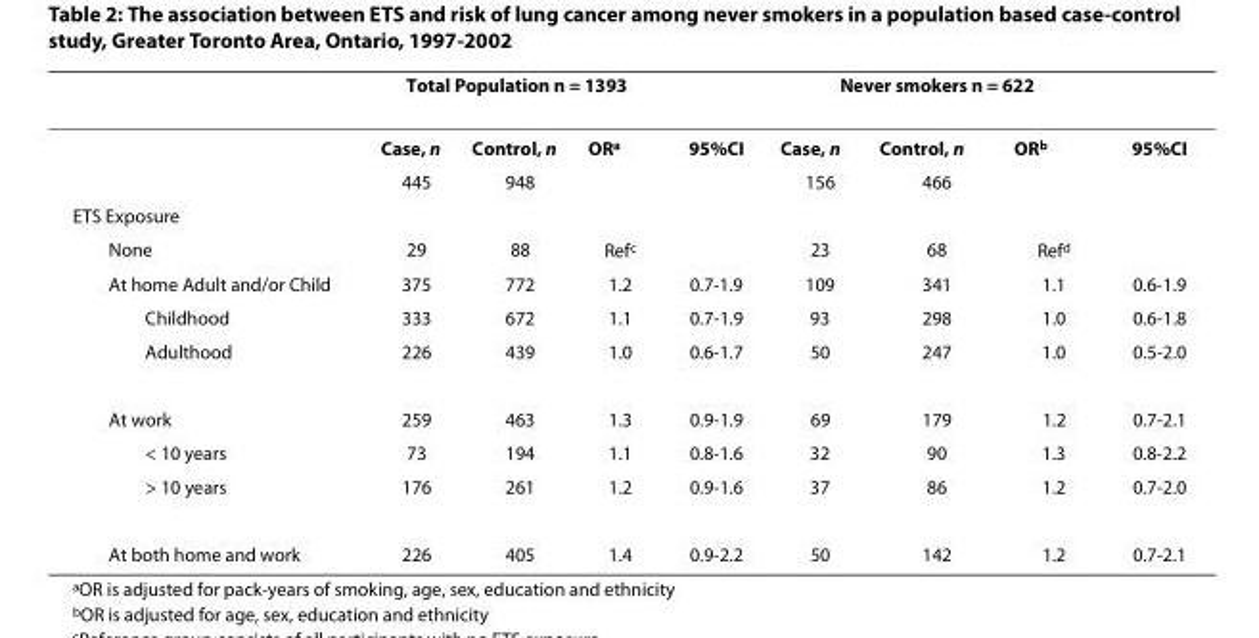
<table><thead><tr><td rowspan="2"></td><td colspan="3">Total Population n = 1393</td><td rowspan="2">95%CI</td><td colspan="3">Never smokers n = 622</td><td rowspan="2">95%CI</td></tr><tr><td>Case, n</td><td>Control, n</td><td>OR<sup>a</sup></td><td>Case, n</td><td>Control, n</td><td>OR<sup>b</sup></td></tr></thead><tbody><tr><td></td><td>445</td><td>948</td><td></td><td></td><td>156</td><td>466</td><td></td><td></td></tr><tr><td colspan="9">ETS Exposure</td></tr><tr><td>None</td><td>29</td><td>88</td><td>Ref<sup>c</sup></td><td></td><td>23</td><td>68</td><td>Ref<sup>d</sup></td><td></td></tr><tr><td>At home Adult and/or Child</td><td>375</td><td>772</td><td>1.2</td><td>0.7-1.9</td><td>109</td><td>341</td><td>1.1</td><td>0.6-1.9</td></tr><tr><td>Childhood</td><td>333</td><td>672</td><td>1.1</td><td>0.7-1.9</td><td>93</td><td>298</td><td>1.0</td><td>0.6-1.8</td></tr><tr><td>Adulthood</td><td>226</td><td>439</td><td>1.0</td><td>0.6-1.7</td><td>50</td><td>247</td><td>1.0</td><td>0.5-2.0</td></tr><tr><td>At work</td><td>259</td><td>463</td><td>1.3</td><td>0.9-1.9</td><td>69</td><td>179</td><td>1.2</td><td>0.7-2.1</td></tr><tr><td>&lt; 10 years</td><td>73</td><td>194</td><td>1.1</td><td>0.8-1.6</td><td>32</td><td>90</td><td>1.3</td><td>0.8-2.2</td></tr><tr><td>&gt; 10 years</td><td>176</td><td>261</td><td>1.2</td><td>0.9-1.6</td><td>37</td><td>86</td><td>1.2</td><td>0.7-2.0</td></tr><tr><td>At both home and work</td><td>226</td><td>405</td><td>1.4</td><td>0.9-2.2</td><td>50</td><td>142</td><td>1.2</td><td>0.7-2.1</td></tr></tbody></table>